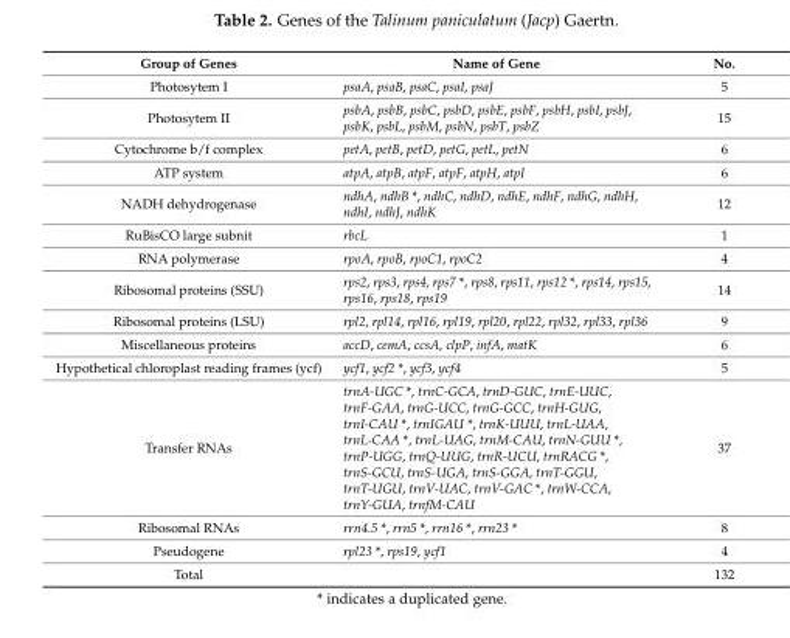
<table><thead><tr><td>Group of Genes</td><td>Name of Gene</td><td>No.</td></tr></thead><tbody><tr><td>Photosytem I</td><td>psaA, psaB, psaC, psaI, psaJ</td><td>5</td></tr><tr><td>Photosytem II</td><td>psbA, psbB, psbC, psbD, psbE, psbF, psbH, psbI, psbJ, psbK, psbL, psbM, psbN, psbT, psbZ</td><td>15</td></tr><tr><td>Cytochrome b/f complex</td><td>petA, petB, petD, petG, petL, petN</td><td>6</td></tr><tr><td>ATP system</td><td>atpA, atpB, atpF, atpF, atpH, atpI</td><td>6</td></tr><tr><td>NADH dehydrogenase</td><td>ndhA, ndhB *, ndhC, ndhD, ndhE, ndhF, ndhG, ndhH, ndhI, ndhJ, ndhK</td><td>12</td></tr><tr><td>RuBisCO large subnit</td><td>rbcL</td><td>1</td></tr><tr><td>RNA polymerase</td><td>rpoA, rpoB, rpoC1, rpoC2</td><td>4</td></tr><tr><td>Ribosomal proteins (SSU)</td><td>rps2, rps3, rps4, rps7 *, rps8, rps11, rps12 *, rps14, rps15, rps16, rps18, rps19</td><td>14</td></tr><tr><td>Ribosomal proteins (LSU)</td><td>rpl2, rpl14, rpl16, rpl19, rpl20, rpl22, rpl32, rpl33, rpl36</td><td>9</td></tr><tr><td>Miscellaneous proteins</td><td>accD, cemA, ccsA, clpP, infA, matK</td><td>6</td></tr><tr><td>Hypothetical chloroplast reading frames (ycf)</td><td>ycf1, ycf2 *, ycf3, ycf4</td><td>5</td></tr><tr><td>Transfer RNAs</td><td>trnA-UGC *, trnC-GCA, trnD-GUC, trnE-UUC, trnF-GAA, trnG-UCC, trnG-GCC, trnH-GUG, trnI-CAU *, trnIGAU *, trnK-UUU, trnL-UAA, trnL-CAA *, trnL-UAG, trnM-CAU, trnN-GUU *, trnP-UGG, trnQ-UUG, trnR-UCU, trnRACG *, trnS-GCU, trnS-UGA, trnS-GGA, trnT-GGU, trnT-UGU, trnV-UAC, trnV-GAC *, trnW-CCA, trnY-GUA, trnfM-CAU</td><td>37</td></tr><tr><td>Ribosomal RNAs</td><td>rrn4.5 *, rrn5 *, rrn16 *, rrn23 *</td><td>8</td></tr><tr><td>Pseudogene</td><td>rpl23 *, rps19, ycf1</td><td>4</td></tr><tr><td>Total</td><td></td><td>132</td></tr></tbody></table>